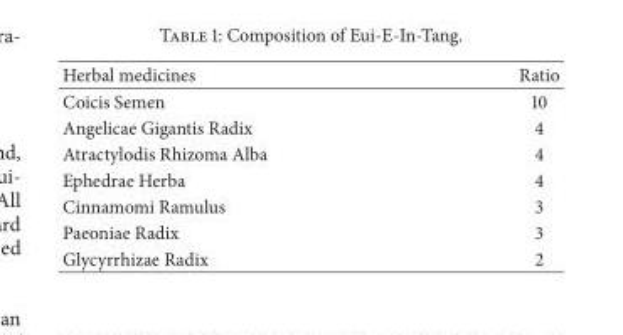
<table><thead><tr><td>Herbal medicines</td><td>Ratio</td></tr></thead><tbody><tr><td>Coicis Semen</td><td>10</td></tr><tr><td>Angelicae Gigantis Radix</td><td>4</td></tr><tr><td>Atractylodis Rhizoma Alba</td><td>4</td></tr><tr><td>Ephedrae Herba</td><td>4</td></tr><tr><td>Cinnamomi Ramulus</td><td>3</td></tr><tr><td>Paeoniae Radix</td><td>3</td></tr><tr><td>Glycyrrhizae Radix</td><td>2</td></tr></tbody></table>